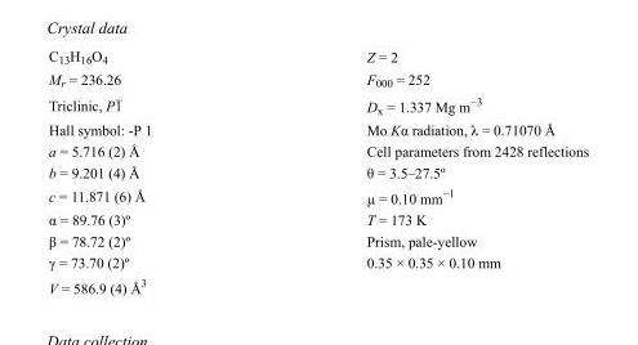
<table><tbody><tr><td>C<sub>13</sub>H<sub>16</sub>O<sub>4</sub></td><td>Z = 2</td></tr><tr><td>M<sub>r</sub> = 236.26</td><td>F000 = 252</td></tr><tr><td>Triclinic, P1</td><td>D<sub>x</sub> = 1.337 Mg m<sup>−3</sup></td></tr><tr><td>Hall symbol: -P 1</td><td>Mo Kα radiation, λ = 0.71070 Å</td></tr><tr><td>a = 5.716 (2) Å</td><td>Cell parameters from 2428 reflections</td></tr><tr><td>b = 9.201 (4) Å</td><td>θ = 3.5–27.5º</td></tr><tr><td>c = 11.871 (6) Å</td><td>µ = 0.10 mm<sup>−1</sup></td></tr><tr><td>α = 89.76 (3)º</td><td>T = 173 K</td></tr><tr><td>β = 78.72 (2)º</td><td>Prism, pale-yellow</td></tr><tr><td>γ = 73.70 (2)º</td><td>0.35 × 0.35 × 0.10 mm</td></tr><tr><td>V = 586.9 (4) Å<sup>3</sup></td><td></td></tr></tbody></table>